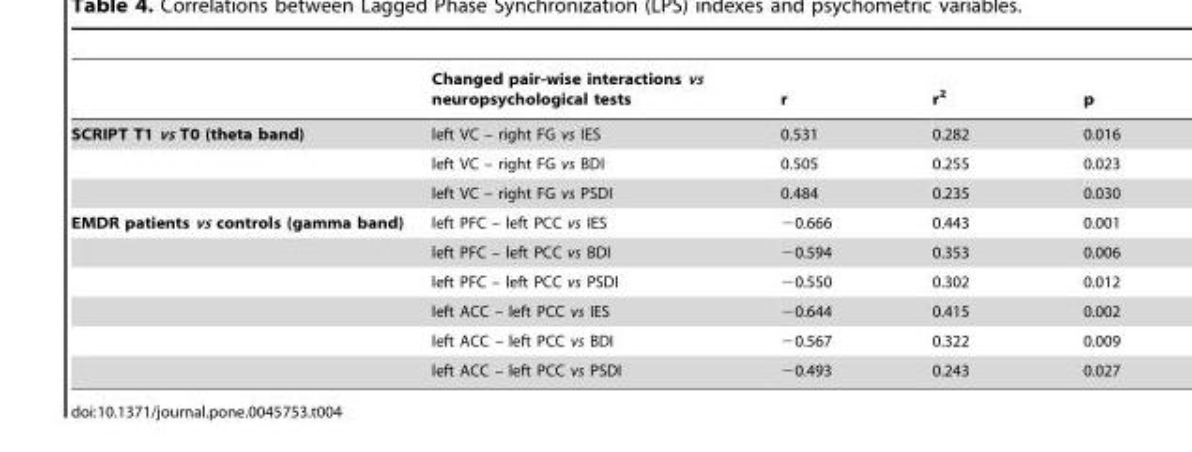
<table><thead><tr><td></td><td>Changed pair-wise interactions vs neuropsychological tests</td><td>r</td><td>r<sup>2</sup></td><td>p</td></tr></thead><tbody><tr><td rowspan="3">SCRIPT T1 vs T0 (theta band)</td><td>left VC – right FG vs IES</td><td>0.531</td><td>0.282</td><td>0.016</td></tr><tr><td>left VC – right FG vs BDI</td><td>0.505</td><td>0.255</td><td>0.023</td></tr><tr><td>left VC – right FG vs PSDI</td><td>0.484</td><td>0.235</td><td>0.030</td></tr><tr><td rowspan="6">EMDR patients vs controls (gamma band)</td><td>left PFC – left PCC vs IES</td><td>−0.666</td><td>0.443</td><td>0.001</td></tr><tr><td>left PFC – left PCC vs BDI</td><td>−0.594</td><td>0.353</td><td>0.006</td></tr><tr><td>left PFC – left PCC vs PSDI</td><td>−0.550</td><td>0.302</td><td>0.012</td></tr><tr><td>left ACC – left PCC vs IES</td><td>−0.644</td><td>0.415</td><td>0.002</td></tr><tr><td>left ACC – left PCC vs BDI</td><td>−0.567</td><td>0.322</td><td>0.009</td></tr><tr><td>left ACC – left PCC vs PSDI</td><td>−0.493</td><td>0.243</td><td>0.027</td></tr></tbody></table>